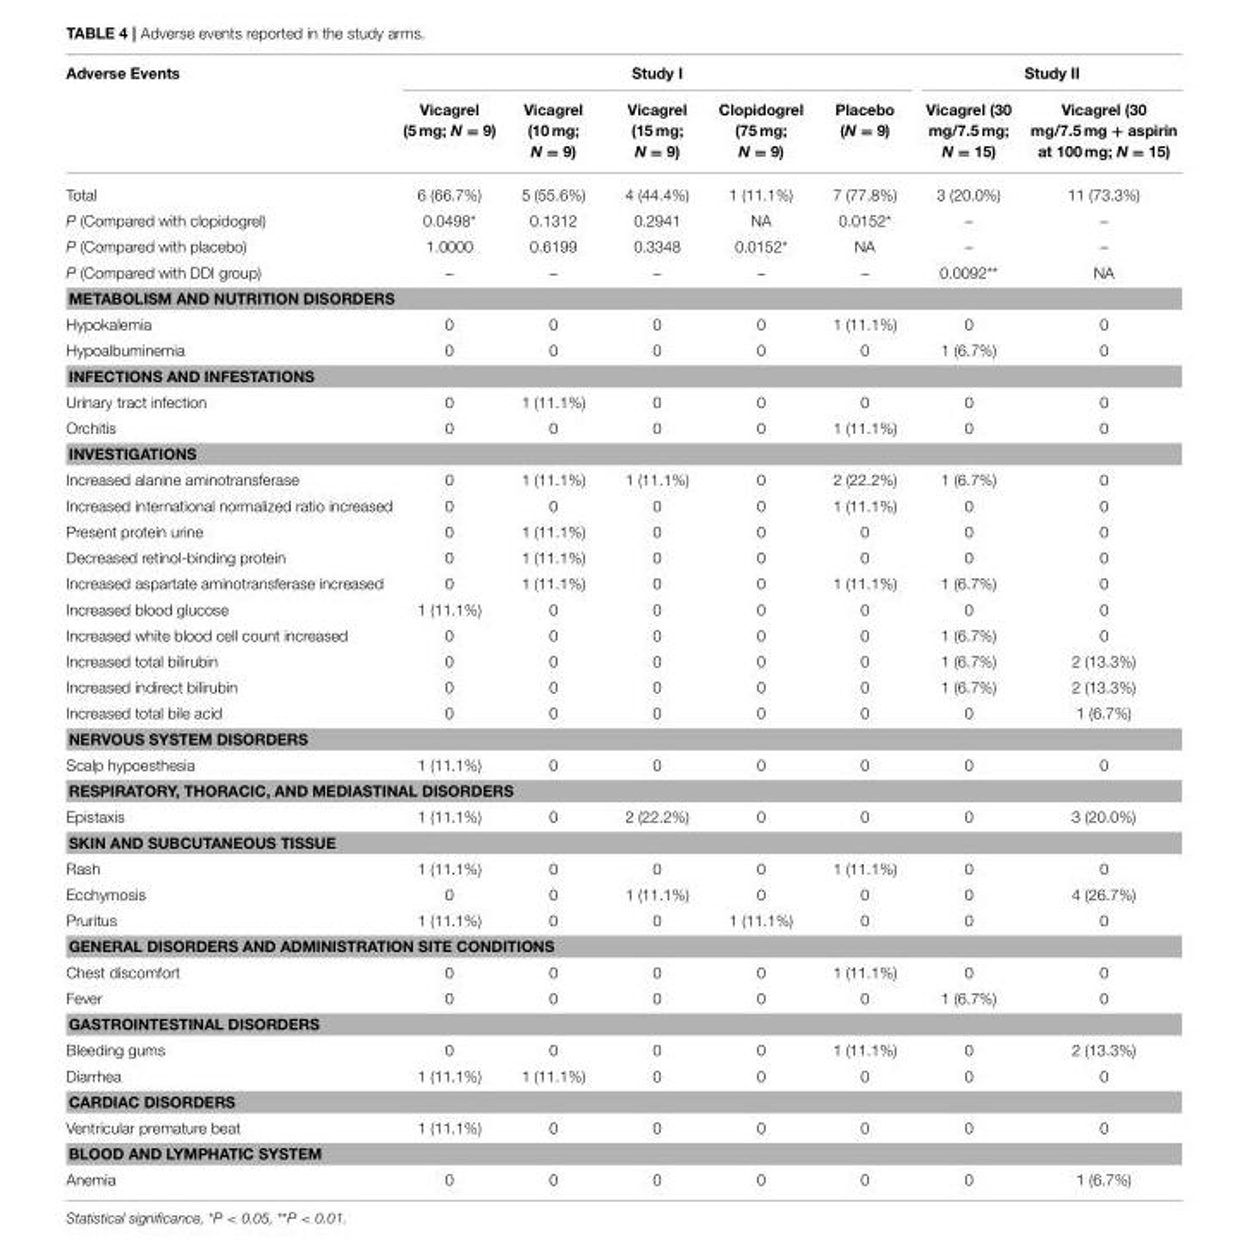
<table><thead><tr><td rowspan="2">Adverse Events</td><td colspan="5">Study I</td><td colspan="2">Study II</td></tr><tr><td>Vicagrel (5 mg; N = 9)</td><td>Vicagrel (10 mg; N = 9)</td><td>Vicagrel (15 mg; N = 9)</td><td>Clopidogrel (75 mg; N = 9)</td><td>Placebo (N = 9)</td><td>Vicagrel (30 mg/7.5 mg; N = 15)</td><td>Vicagrel (30 mg/7.5 mg + aspirin at 100 mg; N = 15)</td></tr></thead><tbody><tr><td>Total</td><td>6 (66.7%)</td><td>5 (55.6%)</td><td>4 (44.4%)</td><td>1 (11.1%)</td><td>7 (77.8%)</td><td>3 (20.0%)</td><td>11 (73.3%)</td></tr><tr><td>P (Compared with clopidogrel)</td><td>0.0498*</td><td>0.1312</td><td>0.2941</td><td>NA</td><td>0.0152*</td><td>–</td><td>–</td></tr><tr><td>P (Compared with placebo)</td><td>1.0000</td><td>0.6199</td><td>0.3348</td><td>0.0152*</td><td>NA</td><td>–</td><td>–</td></tr><tr><td>P (Compared with DDI group)</td><td>–</td><td>–</td><td>–</td><td>–</td><td>–</td><td>0.0092**</td><td>NA</td></tr><tr><td colspan="8">METABOLISM AND NUTRITION DISORDERS</td></tr><tr><td>Hypokalemia</td><td>0</td><td>0</td><td>0</td><td>0</td><td>1 (11.1%)</td><td>0</td><td>0</td></tr><tr><td>Hypoalbuminemia</td><td>0</td><td>0</td><td>0</td><td>0</td><td>0</td><td>1 (6.7%)</td><td>0</td></tr><tr><td colspan="8">INFECTIONS AND INFESTATIONS</td></tr><tr><td>Urinary tract infection</td><td>0</td><td>1 (11.1%)</td><td>0</td><td>0</td><td>0</td><td>0</td><td>0</td></tr><tr><td>Orchitis</td><td>0</td><td>0</td><td>0</td><td>0</td><td>1 (11.1%)</td><td>0</td><td>0</td></tr><tr><td colspan="8">INVESTIGATIONS</td></tr><tr><td>Increased alanine aminotransferase</td><td>0</td><td>1 (11.1%)</td><td>1 (11.1%)</td><td>0</td><td>2 (22.2%)</td><td>1 (6.7%)</td><td>0</td></tr><tr><td>Increased international normalized ratio increased</td><td>0</td><td>0</td><td>0</td><td>0</td><td>1 (11.1%)</td><td>0</td><td>0</td></tr><tr><td>Present protein urine</td><td>0</td><td>1 (11.1%)</td><td>0</td><td>0</td><td>0</td><td>0</td><td>0</td></tr><tr><td>Decreased retinol-binding protein</td><td>0</td><td>1 (11.1%)</td><td>0</td><td>0</td><td>0</td><td>0</td><td>0</td></tr><tr><td>Increased aspartate aminotransferase increased</td><td>0</td><td>1 (11.1%)</td><td>0</td><td>0</td><td>1 (11.1%)</td><td>1 (6.7%)</td><td>0</td></tr><tr><td>Increased blood glucose</td><td>1 (11.1%)</td><td>0</td><td>0</td><td>0</td><td>0</td><td>0</td><td>0</td></tr><tr><td>Increased white blood cell count increased</td><td>0</td><td>0</td><td>0</td><td>0</td><td>0</td><td>1 (6.7%)</td><td>0</td></tr><tr><td>Increased total bilirubin</td><td>0</td><td>0</td><td>0</td><td>0</td><td>0</td><td>1 (6.7%)</td><td>2 (13.3%)</td></tr><tr><td>Increased indirect bilirubin</td><td>0</td><td>0</td><td>0</td><td>0</td><td>0</td><td>1 (6.7%)</td><td>2 (13.3%)</td></tr><tr><td>Increased total bile acid</td><td>0</td><td>0</td><td>0</td><td>0</td><td>0</td><td>0</td><td>1 (6.7%)</td></tr><tr><td colspan="8">NERVOUS SYSTEM DISORDERS</td></tr><tr><td>Scalp hypoesthesia</td><td>1 (11.1%)</td><td>0</td><td>0</td><td>0</td><td>0</td><td>0</td><td>0</td></tr><tr><td colspan="8">RESPIRATORY, THORACIC, AND MEDIASTINAL DISORDERS</td></tr><tr><td>Epistaxis</td><td>1 (11.1%)</td><td>0</td><td>2 (22.2%)</td><td>0</td><td>0</td><td>0</td><td>3 (20.0%)</td></tr><tr><td colspan="8">SKIN AND SUBCUTANEOUS TISSUE</td></tr><tr><td>Rash</td><td>1 (11.1%)</td><td>0</td><td>0</td><td>0</td><td>1 (11.1%)</td><td>0</td><td>0</td></tr><tr><td>Ecchymosis</td><td>0</td><td>0</td><td>1 (11.1%)</td><td>0</td><td>0</td><td>0</td><td>4 (26.7%)</td></tr><tr><td>Pruritus</td><td>1 (11.1%)</td><td>0</td><td>0</td><td>1 (11.1%)</td><td>0</td><td>0</td><td>0</td></tr><tr><td colspan="8">GENERAL DISORDERS AND ADMINISTRATION SITE CONDITIONS</td></tr><tr><td>Chest discomfort</td><td>0</td><td>0</td><td>0</td><td>0</td><td>1 (11.1%)</td><td>0</td><td>0</td></tr><tr><td>Fever</td><td>0</td><td>0</td><td>0</td><td>0</td><td>0</td><td>1 (6.7%)</td><td>0</td></tr><tr><td colspan="8">GASTROINTESTINAL DISORDERS</td></tr><tr><td>Bleeding gums</td><td>0</td><td>0</td><td>0</td><td>0</td><td>1 (11.1%)</td><td>0</td><td>2 (13.3%)</td></tr><tr><td>Diarrhea</td><td>1 (11.1%)</td><td>1 (11.1%)</td><td>0</td><td>0</td><td>0</td><td>0</td><td>0</td></tr><tr><td colspan="8">CARDIAC DISORDERS</td></tr><tr><td>Ventricular premature beat</td><td>1 (11.1%)</td><td>0</td><td>0</td><td>0</td><td>0</td><td>0</td><td>0</td></tr><tr><td colspan="8">BLOOD AND LYMPHATIC SYSTEM</td></tr><tr><td>Anemia</td><td>0</td><td>0</td><td>0</td><td>0</td><td>0</td><td>0</td><td>1 (6.7%)</td></tr></tbody></table>